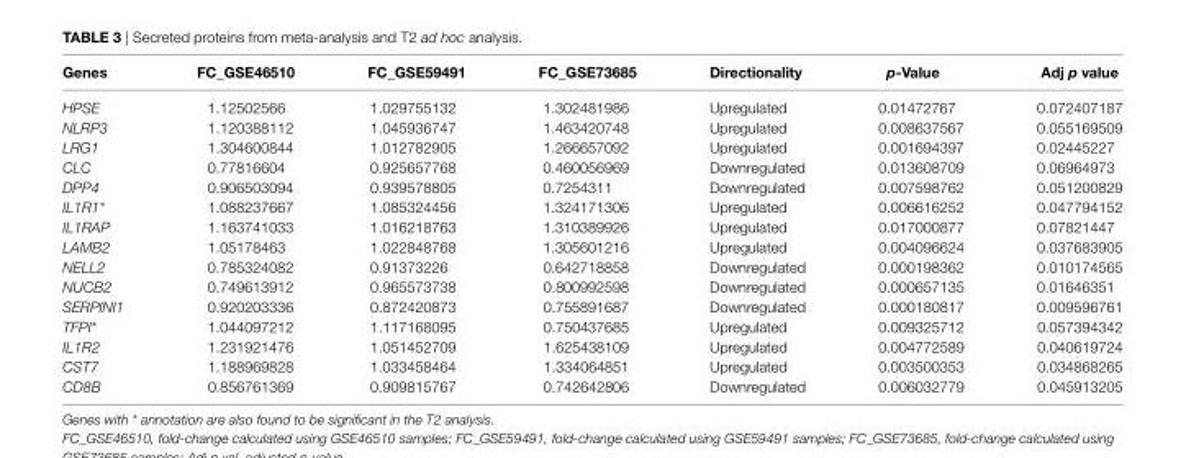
<table><thead><tr><td>Genes</td><td>Fc_GSe46510</td><td>Fc_GSe59491</td><td>Fc_GSe73685</td><td>Directionality</td><td>p-value</td><td>adj p value</td></tr></thead><tbody><tr><td>HPSE</td><td>1.12502566</td><td>1.029755132</td><td>1.302481986</td><td>Upregulated</td><td>0.01472767</td><td>0.072407187</td></tr><tr><td>NLRP3</td><td>1.120388112</td><td>1.045936747</td><td>1.463420748</td><td>Upregulated</td><td>0.008637567</td><td>0.055169509</td></tr><tr><td>LRG1</td><td>1.304600844</td><td>1.012782905</td><td>1.266657092</td><td>Upregulated</td><td>0.001694397</td><td>0.02445227</td></tr><tr><td>CLC</td><td>0.77816604</td><td>0.925657768</td><td>0.460056969</td><td>Downregulated</td><td>0.013608709</td><td>0.06964973</td></tr><tr><td>DPP4</td><td>0.906503094</td><td>0.939578805</td><td>0.7254311</td><td>Downregulated</td><td>0.007598762</td><td>0.051200829</td></tr><tr><td>IL1R1*</td><td>1.088237667</td><td>1.085324456</td><td>1.324171306</td><td>Upregulated</td><td>0.006616252</td><td>0.047794152</td></tr><tr><td>IL1RAP</td><td>1.163741033</td><td>1.016218763</td><td>1.310389926</td><td>Upregulated</td><td>0.017000877</td><td>0.07821447</td></tr><tr><td>LAMB2</td><td>1.05178463</td><td>1.022848768</td><td>1.305601216</td><td>Upregulated</td><td>0.004096624</td><td>0.037683905</td></tr><tr><td>NELL2</td><td>0.785324082</td><td>0.91373226</td><td>0.642718858</td><td>Downregulated</td><td>0.000198362</td><td>0.010174565</td></tr><tr><td>NUCB2</td><td>0.749613912</td><td>0.965573738</td><td>0.800992598</td><td>Downregulated</td><td>0.000657135</td><td>0.01646351</td></tr><tr><td>SERPINI1</td><td>0.920203336</td><td>0.872420873</td><td>0.755891687</td><td>Downregulated</td><td>0.000180817</td><td>0.009596761</td></tr><tr><td>TFPI*</td><td>1.044097212</td><td>1.117168095</td><td>0.750437685</td><td>Upregulated</td><td>0.009325712</td><td>0.057394342</td></tr><tr><td>IL1R2</td><td>1.231921476</td><td>1.051452709</td><td>1.625438109</td><td>Upregulated</td><td>0.004772589</td><td>0.040619724</td></tr><tr><td>CST7</td><td>1.188969828</td><td>1.033458464</td><td>1.334064851</td><td>Upregulated</td><td>0.003500353</td><td>0.034868265</td></tr><tr><td>CD8B</td><td>0.856761369</td><td>0.909815767</td><td>0.742642806</td><td>Downregulated</td><td>0.006032779</td><td>0.045913205</td></tr></tbody></table>